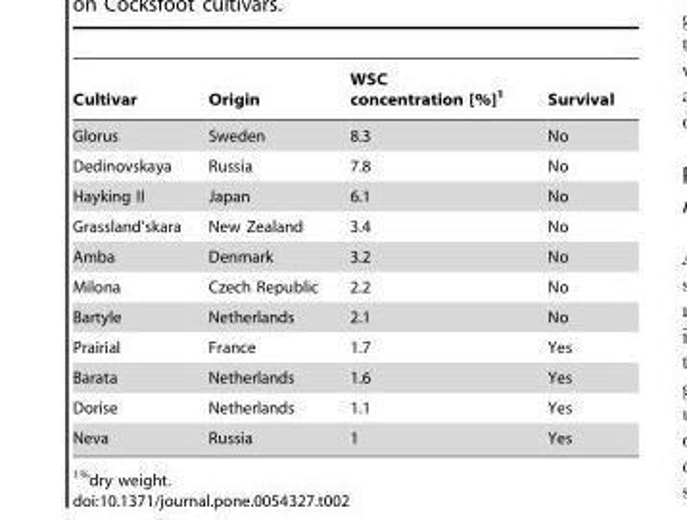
<table><thead><tr><td>Cultivar</td><td>Origin</td><td>WSC concentration [%]<sup>1</sup></td><td>Survival</td></tr></thead><tbody><tr><td>Glorus</td><td>Sweden</td><td>8.3</td><td>No</td></tr><tr><td>Dedinovskaya</td><td>Russia</td><td>7.8</td><td>No</td></tr><tr><td>Hayking II</td><td>Japan</td><td>6.1</td><td>No</td></tr><tr><td>Grassland’skara</td><td>New Zealand</td><td>3.4</td><td>No</td></tr><tr><td>Amba</td><td>Denmark</td><td>3.2</td><td>No</td></tr><tr><td>Milona</td><td>Czech Republic</td><td>2.2</td><td>No</td></tr><tr><td>Bartyle</td><td>Netherlands</td><td>2.1</td><td>No</td></tr><tr><td>Prairial</td><td>France</td><td>1.7</td><td>Yes</td></tr><tr><td>Barata</td><td>Netherlands</td><td>1.6</td><td>Yes</td></tr><tr><td>Dorise</td><td>Netherlands</td><td>1.1</td><td>Yes</td></tr><tr><td>Neva</td><td>Russia</td><td>1</td><td>Yes</td></tr></tbody></table>